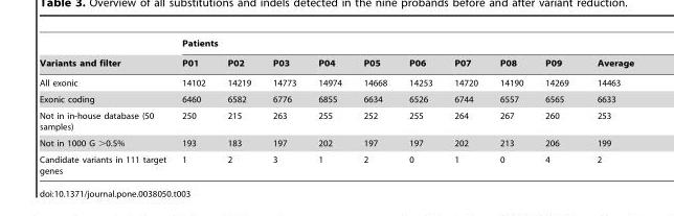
<table><thead><tr><td rowspan="2">Variants and filter</td><td colspan="10">Patients</td></tr><tr><td>P01</td><td>P02</td><td>P03</td><td>P04</td><td>P05</td><td>P06</td><td>P07</td><td>P08</td><td>P09</td><td>Average</td></tr></thead><tbody><tr><td>All exonic</td><td>14102</td><td>14219</td><td>14773</td><td>14974</td><td>14668</td><td>14253</td><td>14720</td><td>14190</td><td>14269</td><td>14463</td></tr><tr><td>Exonic coding</td><td>6460</td><td>6582</td><td>6776</td><td>6855</td><td>6634</td><td>6526</td><td>6744</td><td>6557</td><td>6565</td><td>6633</td></tr><tr><td>Not in in-house database (50 samples)</td><td>250</td><td>215</td><td>263</td><td>255</td><td>252</td><td>255</td><td>264</td><td>267</td><td>260</td><td>253</td></tr><tr><td>Not in 1000 G &gt;0.5%</td><td>193</td><td>183</td><td>197</td><td>202</td><td>197</td><td>197</td><td>202</td><td>213</td><td>206</td><td>199</td></tr><tr><td>Candidate variants in 111 target genes</td><td>1</td><td>2</td><td>3</td><td>1</td><td>2</td><td>0</td><td>1</td><td>0</td><td>4</td><td>2</td></tr></tbody></table>